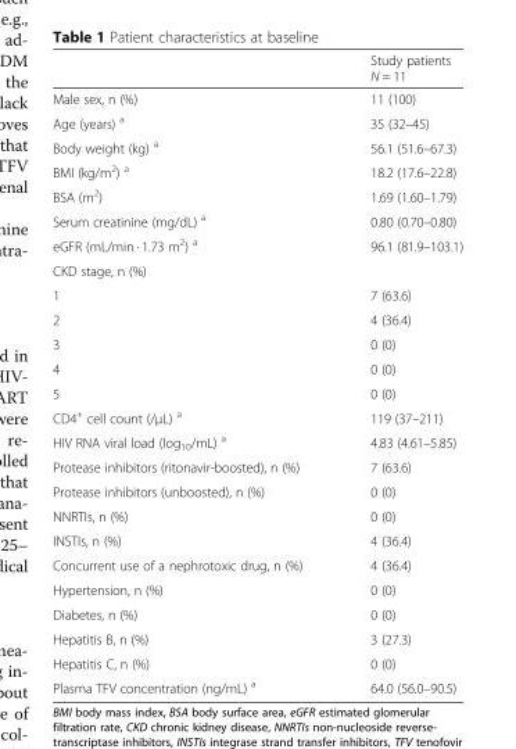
<table><thead><tr><td></td><td>Study patients N = 11</td></tr></thead><tbody><tr><td>Male sex, n (%)</td><td>11 (100)</td></tr><tr><td>Age (years) <sup>a</sup></td><td>35 (32–45)</td></tr><tr><td>Body weight (kg) <sup>a</sup></td><td>56.1 (51.6–67.3)</td></tr><tr><td>BMI (kg/m<sup>2</sup>) <sup>a</sup></td><td>18.2 (17.6–22.8)</td></tr><tr><td>BSA (m<sup>2</sup>)</td><td>1.69 (1.60–1.79)</td></tr><tr><td>Serum creatinine (mg/dL) <sup>a</sup></td><td>0.80 (0.70–0.80)</td></tr><tr><td>eGFR (mL/min · 1.73 m<sup>2</sup>) <sup>a</sup></td><td>96.1 (81.9–103.1)</td></tr><tr><td colspan="2">CKD stage, n (%)</td></tr><tr><td>1</td><td>7 (63.6)</td></tr><tr><td>2</td><td>4 (36.4)</td></tr><tr><td>3</td><td>0 (0)</td></tr><tr><td>4</td><td>0 (0)</td></tr><tr><td>5</td><td>0 (0)</td></tr><tr><td>CD4<sup>+</sup> cell count (/μL) <sup>a</sup></td><td>119 (37–211)</td></tr><tr><td>HIV RNA viral load (log<sub>10</sub>/mL) <sup>a</sup></td><td>4.83 (4.61–5.85)</td></tr><tr><td>Protease inhibitors (ritonavir-boosted), n (%)</td><td>7 (63.6)</td></tr><tr><td>Protease inhibitors (unboosted), n (%)</td><td>0 (0)</td></tr><tr><td>NNRTIs, n (%)</td><td>0 (0)</td></tr><tr><td>INSTIs, n (%)</td><td>4 (36.4)</td></tr><tr><td>Concurrent use of a nephrotoxic drug, n (%)</td><td>4 (36.4)</td></tr><tr><td>Hypertension, n (%)</td><td>0 (0)</td></tr><tr><td>Diabetes, n (%)</td><td>0 (0)</td></tr><tr><td>Hepatitis B, n (%)</td><td>3 (27.3)</td></tr><tr><td>Hepatitis C, n (%)</td><td>0 (0)</td></tr><tr><td>Plasma TFV concentration (ng/mL) <sup>a</sup></td><td>64.0 (56.0–90.5)</td></tr></tbody></table>